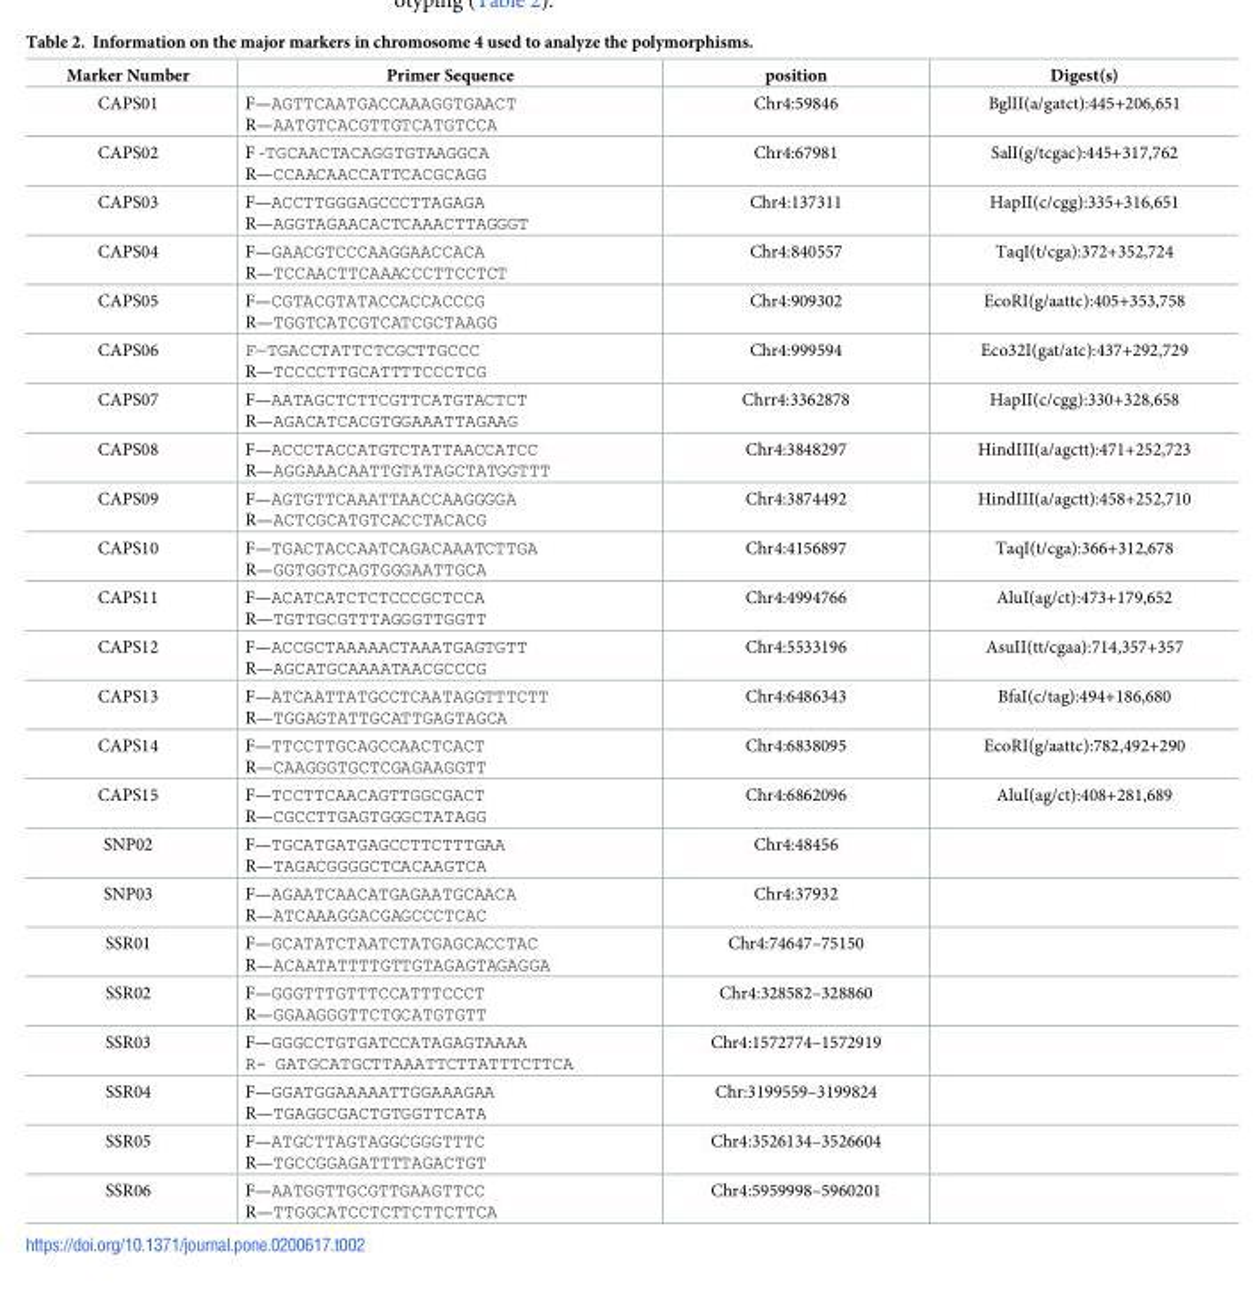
<table><thead><tr><td>Marker Number</td><td>Primer Sequence</td><td>position</td><td>Digest(s)</td></tr></thead><tbody><tr><td>CAPS01</td><td>F—AGTTCAATGACCAAAGGTGAACT R—AATGTCACGTTGTCATGTCCA</td><td>Chr4:59846</td><td>BglII(a/gatct):445+206,651</td></tr><tr><td>CAPS02</td><td>F -TGCAACTACAGGTGTAAGGCA R—CCAACAACCATTCACGCAGG</td><td>Chr4:67981</td><td>SalI(g/tcgac):445+317,762</td></tr><tr><td>CAPS03</td><td>F—ACCTTGGGAGCCCTTAGAGA R—AGGTAGAACACTCAAACTTAGGGT</td><td>Chr4:137311</td><td>HapII(c/cgg):335+316,651</td></tr><tr><td>CAPS04</td><td>F—GAACGTCCCAAGGAACCACA R—TCCAACTTCAAACCCTTCCTCT</td><td>Chr4:840557</td><td>TaqI(t/cga):372+352,724</td></tr><tr><td>CAPS05</td><td>F—CGTACGTATACCACCACCCG R—TGGTCATCGTCATCGCTAAGG</td><td>Chr4:909302</td><td>EcoRI(g/aattc):405+353,758</td></tr><tr><td>CAPS06</td><td>F—TGACCTATTCTCGCTTGCCC R—TCCCCTTGCATTTTCCCTCG</td><td>Chr4:999594</td><td>Eco32I(gat/atc):437+292,729</td></tr><tr><td>CAPS07</td><td>F—AATAGCTCTTCGTTCATGTACTCT R—AGACATCACGTGGAAATTAGAAG</td><td>Chrr4:3362878</td><td>HapII(c/cgg):330+328,658</td></tr><tr><td>CAPS08</td><td>F—ACCCTACCATGTCTATTAACCATCC R—AGGAAACAATTGTATAGCTATGGTTT</td><td>Chr4:3848297</td><td>HindIII(a/agctt):471+252,723</td></tr><tr><td>CAPS09</td><td>F—AGTGTTCAAATTAACCAAGGGGA R—ACTCGCATGTCACCTACACG</td><td>Chr4:3874492</td><td>HindIII(a/agctt):458+252,710</td></tr><tr><td>CAPS10</td><td>F—TGACTACCAATCAGACAAATCTTGA R—GGTGGTCAGTGGGAATTGCA</td><td>Chr4:4156897</td><td>TaqI(t/cga):366+312,678</td></tr><tr><td>CAPS11</td><td>F—ACATCATCTCTCCCGCTCCA R—TGTTGCGTTTAGGGTTGGTT</td><td>Chr4:4994766</td><td>AluI(ag/ct):473+179,652</td></tr><tr><td>CAPS12</td><td>F—ACCGCTAAAAACTAAATGAGTGTT R—AGCATGCAAAATAACGCCCG</td><td>Chr4:5533196</td><td>AsuII(tt/cgaa):714,357+357</td></tr><tr><td>CAPS13</td><td>F—ATCAATTATGCCTCAATAGGTTTCTT R—TGGAGTATTGCATTGAGTAGCA</td><td>Chr4:6486343</td><td>BfaI(c/tag):494+186,680</td></tr><tr><td>CAPS14</td><td>F—TTCCTTGCAGCCAACTCACT R—CAAGGGTGCTCGAGAAGGTT</td><td>Chr4:6838095</td><td>EcoRI(g/aattc):782,492+290</td></tr><tr><td>CAPS15</td><td>F—TCCTTCAACAGTTGGCGACT R—CGCCTTGAGTGGGCTATAGG</td><td>Chr4:6862096</td><td>AluI(ag/ct):408+281,689</td></tr><tr><td>SNP02</td><td>F—TGCATGATGAGCCTTCTTTGAA R—TAGACGGGGCTCACAAGTCA</td><td>Chr4:48456</td><td></td></tr><tr><td>SNP03</td><td>F—AGAATCAACATGAGAATGCAACA R—ATCAAAGGACGAGCCCTCAC</td><td>Chr4:37932</td><td></td></tr><tr><td>SSR01</td><td>F—GCATATCTAATCTATGAGCACCTAC R—ACAATATTTTGTTGTAGAGTAGAGGA</td><td>Chr4:74647–75150</td><td></td></tr><tr><td>SSR02</td><td>F—GGGTTTGTTTCCATTTCCCT R—GGAAGGGTTCTGCATGTGTT</td><td>Chr4:328582–328860</td><td></td></tr><tr><td>SSR03</td><td>F—GGGCCTGTGATCCATAGAGTAAAA R- GATGCATGCTTAAATTCTTATTTCTTCA</td><td>Chr4:1572774–1572919</td><td></td></tr><tr><td>SSR04</td><td>F—GGATGGAAAAATTGGAAAGAA R—TGAGGCGACTGTGGTTCATA</td><td>Chr:3199559–3199824</td><td></td></tr><tr><td>SSR05</td><td>F—ATGCTTAGTAGGCGGGTTTC R—TGCCGGAGATTTTAGACTGT</td><td>Chr4:3526134–3526604</td><td></td></tr><tr><td>SSR06</td><td>F—AATGGTTGCGTTGAAGTTCC R—TTGGCATCCTCTTCTTCTTCA</td><td>Chr4:5959998–5960201</td><td></td></tr></tbody></table>